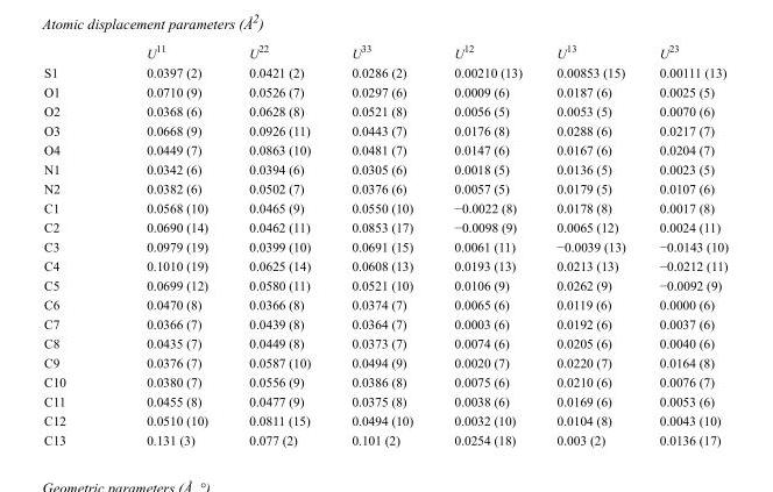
<table><thead><tr><td></td><td>U<sup>11</sup></td><td>U<sup>22</sup></td><td>U<sup>33</sup></td><td>U<sup>12</sup></td><td>U<sup>13</sup></td><td>U<sup>23</sup></td></tr></thead><tbody><tr><td>S1</td><td>0.0397 (2)</td><td>0.0421 (2)</td><td>0.0286 (2)</td><td>0.00210 (13)</td><td>0.00853 (15)</td><td>0.00111 (13)</td></tr><tr><td>O1</td><td>0.0710 (9)</td><td>0.0526 (7)</td><td>0.0297 (6)</td><td>0.0009 (6)</td><td>0.0187 (6)</td><td>0.0025 (5)</td></tr><tr><td>O2</td><td>0.0368 (6)</td><td>0.0628 (8)</td><td>0.0521 (8)</td><td>0.0056 (5)</td><td>0.0053 (5)</td><td>0.0070 (6)</td></tr><tr><td>O3</td><td>0.0668 (9)</td><td>0.0926 (11)</td><td>0.0443 (7)</td><td>0.0176 (8)</td><td>0.0288 (6)</td><td>0.0217 (7)</td></tr><tr><td>O4</td><td>0.0449 (7)</td><td>0.0863 (10)</td><td>0.0481 (7)</td><td>0.0147 (6)</td><td>0.0167 (6)</td><td>0.0204 (7)</td></tr><tr><td>N1</td><td>0.0342 (6)</td><td>0.0394 (6)</td><td>0.0305 (6)</td><td>0.0018 (5)</td><td>0.0136 (5)</td><td>0.0023 (5)</td></tr><tr><td>N2</td><td>0.0382 (6)</td><td>0.0502 (7)</td><td>0.0376 (6)</td><td>0.0057 (5)</td><td>0.0179 (5)</td><td>0.0107 (6)</td></tr><tr><td>C1</td><td>0.0568 (10)</td><td>0.0465 (9)</td><td>0.0550 (10)</td><td>−0.0022 (8)</td><td>0.0178 (8)</td><td>0.0017 (8)</td></tr><tr><td>C2</td><td>0.0690 (14)</td><td>0.0462 (11)</td><td>0.0853 (17)</td><td>−0.0098 (9)</td><td>0.0065 (12)</td><td>0.0024 (11)</td></tr><tr><td>C3</td><td>0.0979 (19)</td><td>0.0399 (10)</td><td>0.0691 (15)</td><td>0.0061 (11)</td><td>−0.0039 (13)</td><td>−0.0143 (10)</td></tr><tr><td>C4</td><td>0.1010 (19)</td><td>0.0625 (14)</td><td>0.0608 (13)</td><td>0.0193 (13)</td><td>0.0213 (13)</td><td>−0.0212 (11)</td></tr><tr><td>C5</td><td>0.0699 (12)</td><td>0.0580 (11)</td><td>0.0521 (10)</td><td>0.0106 (9)</td><td>0.0262 (9)</td><td>−0.0092 (9)</td></tr><tr><td>C6</td><td>0.0470 (8)</td><td>0.0366 (8)</td><td>0.0374 (7)</td><td>0.0065 (6)</td><td>0.0119 (6)</td><td>0.0000 (6)</td></tr><tr><td>C7</td><td>0.0366 (7)</td><td>0.0439 (8)</td><td>0.0364 (7)</td><td>0.0003 (6)</td><td>0.0192 (6)</td><td>0.0037 (6)</td></tr><tr><td>C8</td><td>0.0435 (7)</td><td>0.0449 (8)</td><td>0.0373 (7)</td><td>0.0074 (6)</td><td>0.0205 (6)</td><td>0.0040 (6)</td></tr><tr><td>C9</td><td>0.0376 (7)</td><td>0.0587 (10)</td><td>0.0494 (9)</td><td>0.0020 (7)</td><td>0.0220 (7)</td><td>0.0164 (8)</td></tr><tr><td>C10</td><td>0.0380 (7)</td><td>0.0556 (9)</td><td>0.0386 (8)</td><td>0.0075 (6)</td><td>0.0210 (6)</td><td>0.0076 (7)</td></tr><tr><td>C11</td><td>0.0455 (8)</td><td>0.0477 (9)</td><td>0.0375 (8)</td><td>0.0038 (6)</td><td>0.0169 (6)</td><td>0.0053 (6)</td></tr><tr><td>C12</td><td>0.0510 (10)</td><td>0.0811 (15)</td><td>0.0494 (10)</td><td>0.0032 (10)</td><td>0.0104 (8)</td><td>0.0043 (10)</td></tr><tr><td>C13</td><td>0.131 (3)</td><td>0.077 (2)</td><td>0.101 (2)</td><td>0.0254 (18)</td><td>0.003 (2)</td><td>0.0136 (17)</td></tr></tbody></table>